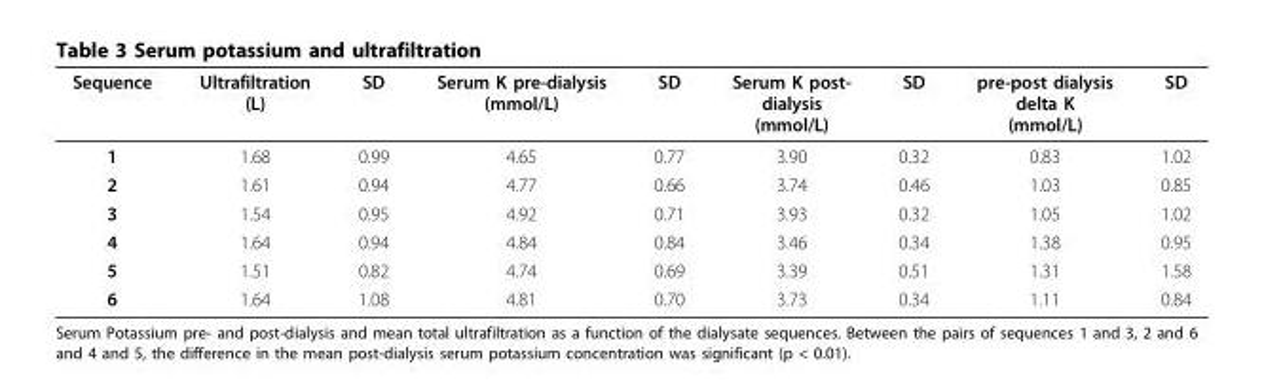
<table><thead><tr><td>Sequence</td><td>Ultrafiltration (L)</td><td>SD</td><td>Serum K pre-dialysis (mmol/L)</td><td>SD</td><td>Serum K post- dialysis (mmol/L)</td><td>SD</td><td>pre-post dialysis delta K (mmol/L)</td><td>SD</td></tr></thead><tbody><tr><td>1</td><td>1.68</td><td>0.99</td><td>4.65</td><td>0.77</td><td>3.90</td><td>0.32</td><td>0.83</td><td>1.02</td></tr><tr><td>2</td><td>1.61</td><td>0.94</td><td>4.77</td><td>0.66</td><td>3.74</td><td>0.46</td><td>1.03</td><td>0.85</td></tr><tr><td>3</td><td>1.54</td><td>0.95</td><td>4.92</td><td>0.71</td><td>3.93</td><td>0.32</td><td>1.05</td><td>1.02</td></tr><tr><td>4</td><td>1.64</td><td>0.94</td><td>4.84</td><td>0.84</td><td>3.46</td><td>0.34</td><td>1.38</td><td>0.95</td></tr><tr><td>5</td><td>1.51</td><td>0.82</td><td>4.74</td><td>0.69</td><td>3.39</td><td>0.51</td><td>1.31</td><td>1.58</td></tr><tr><td>6</td><td>1.64</td><td>1.08</td><td>4.81</td><td>0.70</td><td>3.73</td><td>0.34</td><td>1.11</td><td>0.84</td></tr></tbody></table>